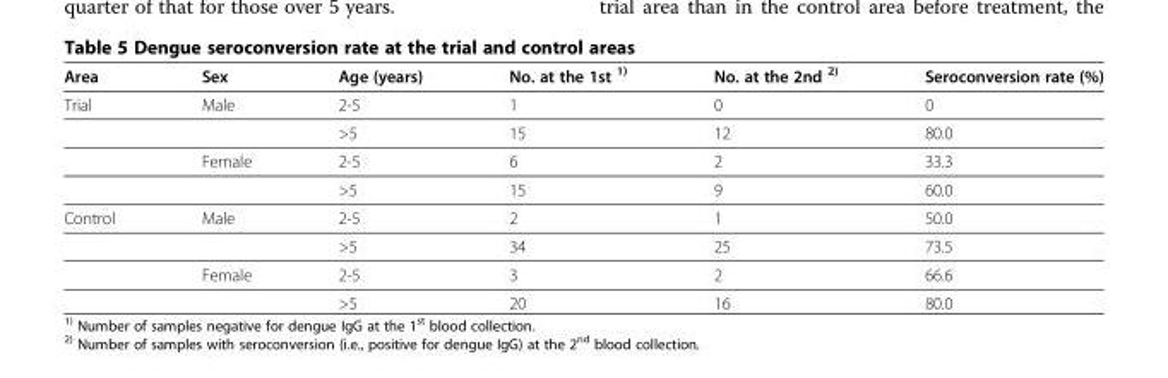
<table><thead><tr><td>Area</td><td>Sex</td><td>Age (years)</td><td>No. at the 1st <sup>1)</sup></td><td>No. at the 2nd <sup>2)</sup></td><td>Seroconversion rate (%)</td></tr></thead><tbody><tr><td rowspan="4">Trial</td><td>Male</td><td>2-5</td><td>1</td><td>0</td><td>0</td></tr><tr><td></td><td>&gt;5</td><td>15</td><td>12</td><td>80.0</td></tr><tr><td>Female</td><td>2-5</td><td>6</td><td>2</td><td>33.3</td></tr><tr><td></td><td>&gt;5</td><td>15</td><td>9</td><td>60.0</td></tr><tr><td rowspan="4">Control</td><td>Male</td><td>2-5</td><td>2</td><td>1</td><td>50.0</td></tr><tr><td></td><td>&gt;5</td><td>34</td><td>25</td><td>73.5</td></tr><tr><td>Female</td><td>2-5</td><td>3</td><td>2</td><td>66.6</td></tr><tr><td></td><td>&gt;5</td><td>20</td><td>16</td><td>80.0</td></tr></tbody></table>